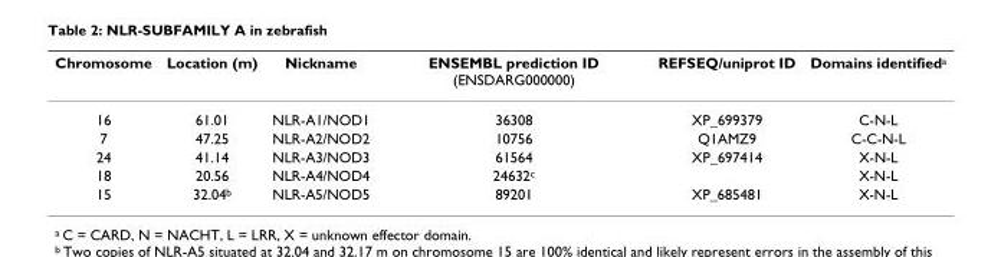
<table><thead><tr><td>Chromosome</td><td>Location (m)</td><td>Nickname</td><td>ENSEMBL prediction ID (ENSDARG000000)</td><td>REFSEQ/uniprot ID</td><td>Domains identified<sup>a</sup></td></tr></thead><tbody><tr><td>16</td><td>61.01</td><td>NLR-A1/NOD1</td><td>36308</td><td>XP_699379</td><td>C-N-L</td></tr><tr><td>7</td><td>47.25</td><td>NLR-A2/NOD2</td><td>10756</td><td>Q1AMZ9</td><td>C-C-N-L</td></tr><tr><td>24</td><td>41.14</td><td>NLR-A3/NOD3</td><td>61564</td><td>XP_697414</td><td>X-N-L</td></tr><tr><td>18</td><td>20.56</td><td>NLR-A4/NOD4</td><td>24632<sup>c</sup></td><td></td><td>X-N-L</td></tr><tr><td>15</td><td>32.04<sup>b</sup></td><td>NLR-A5/NOD5</td><td>89201</td><td>XP_685481</td><td>X-N-L</td></tr></tbody></table>